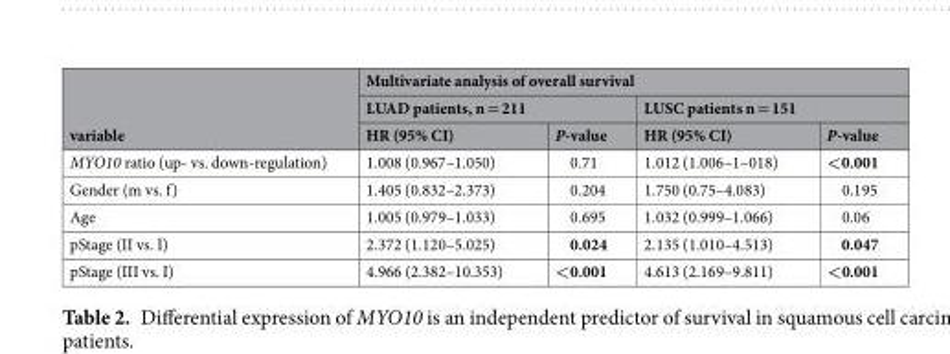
<table><thead><tr><td rowspan="3">variable</td><td colspan="4">Multivariate analysis of overall survival</td></tr><tr><td colspan="2">LUAD patients, n = 211</td><td colspan="2">LUSC patients n = 151</td></tr><tr><td>HR (95% CI)</td><td>P-value</td><td>HR (95% CI)</td><td>P-value</td></tr></thead><tbody><tr><td>MYO10 ratio (up- vs. down-regulation)</td><td>1.008 (0.967–1.050)</td><td>0.71</td><td>1.012 (1.006–1–018)</td><td>&lt;0.001</td></tr><tr><td>Gender (m vs. f)</td><td>1.405 (0.832–2.373)</td><td>0.204</td><td>1.750 (0.75–4.083)</td><td>0.195</td></tr><tr><td>Age</td><td>1.005 (0.979–1.033)</td><td>0.695</td><td>1.032 (0.999–1.066)</td><td>0.06</td></tr><tr><td>pStage (II vs. I)</td><td>2.372 (1.120–5.025)</td><td>0.024</td><td>2.135 (1.010–4.513)</td><td>0.047</td></tr><tr><td>pStage (III vs. I)</td><td>4.966 (2.382–10.353)</td><td>&lt;0.001</td><td>4.613 (2.169–9.811)</td><td>&lt;0.001</td></tr></tbody></table>